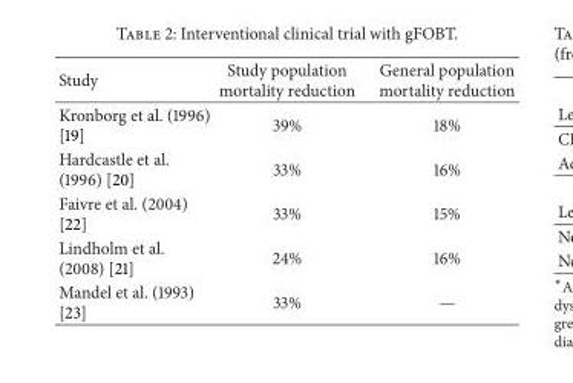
<table><thead><tr><td>Study</td><td>Study population mortality reduction</td><td>General population mortality reduction</td></tr></thead><tbody><tr><td>Kronborg et al. (1996) [19]</td><td>39%</td><td>18%</td></tr><tr><td>Hardcastle et al. (1996) [20]</td><td>33%</td><td>16%</td></tr><tr><td>Faivre et al. (2004) [22]</td><td>33%</td><td>15%</td></tr><tr><td>Lindholm et al. (2008) [21]</td><td>24%</td><td>16%</td></tr><tr><td>Mandel et al. (1993) [23]</td><td>33%</td><td>—</td></tr></tbody></table>